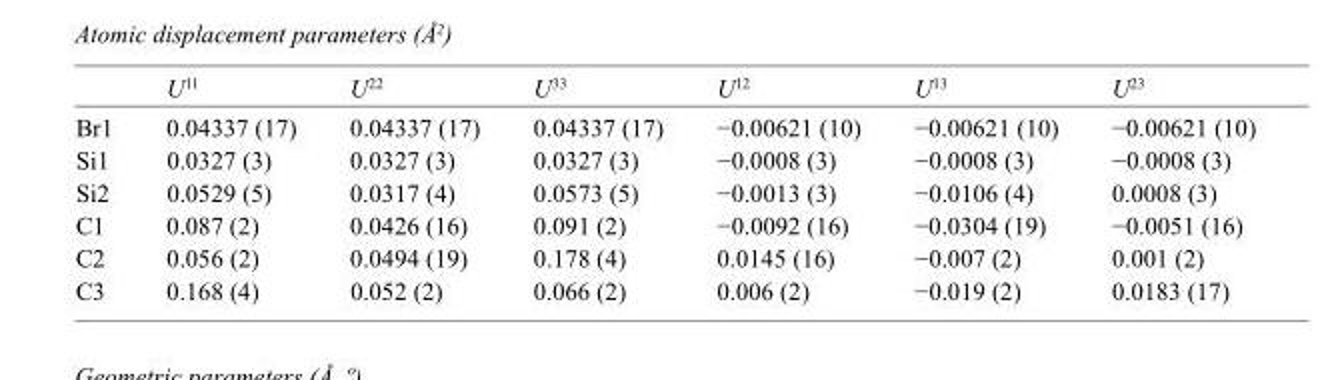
<table><thead><tr><td></td><td>U<sup>11</sup></td><td>U<sup>22</sup></td><td>U<sup>33</sup></td><td>U<sup>12</sup></td><td>U<sup>13</sup></td><td>U<sup>23</sup></td></tr></thead><tbody><tr><td>Br1</td><td>0.04337 (17)</td><td>0.04337 (17)</td><td>0.04337 (17)</td><td>−0.00621 (10)</td><td>−0.00621 (10)</td><td>−0.00621 (10)</td></tr><tr><td>Si1</td><td>0.0327 (3)</td><td>0.0327 (3)</td><td>0.0327 (3)</td><td>−0.0008 (3)</td><td>−0.0008 (3)</td><td>−0.0008 (3)</td></tr><tr><td>Si2</td><td>0.0529 (5)</td><td>0.0317 (4)</td><td>0.0573 (5)</td><td>−0.0013 (3)</td><td>−0.0106 (4)</td><td>0.0008 (3)</td></tr><tr><td>C1</td><td>0.087 (2)</td><td>0.0426 (16)</td><td>0.091 (2)</td><td>−0.0092 (16)</td><td>−0.0304 (19)</td><td>−0.0051 (16)</td></tr><tr><td>C2</td><td>0.056 (2)</td><td>0.0494 (19)</td><td>0.178 (4)</td><td>0.0145 (16)</td><td>−0.007 (2)</td><td>0.001 (2)</td></tr><tr><td>C3</td><td>0.168 (4)</td><td>0.052 (2)</td><td>0.066 (2)</td><td>0.006 (2)</td><td>−0.019 (2)</td><td>0.0183 (17)</td></tr></tbody></table>